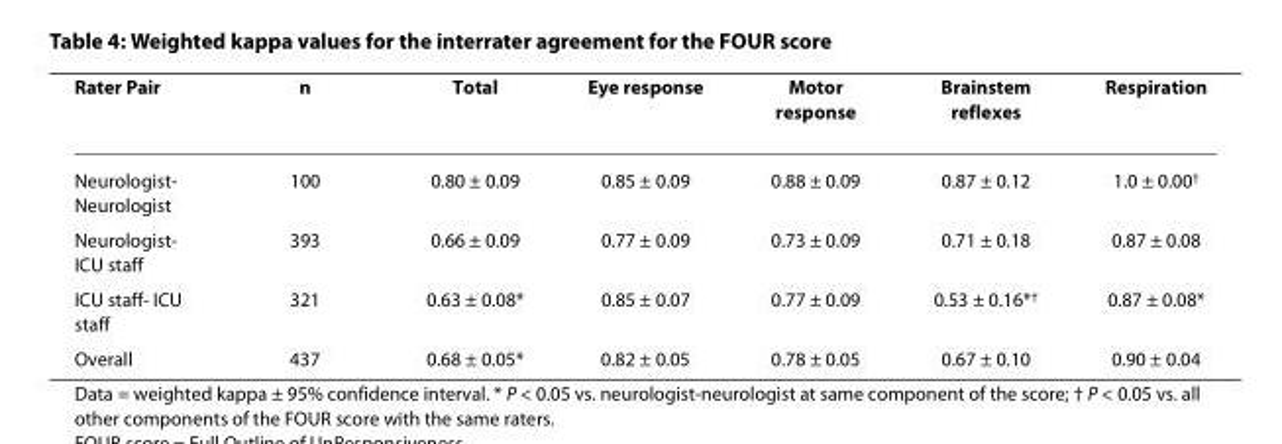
<table><thead><tr><td>Rater Pair</td><td>n</td><td>Total</td><td>Eye response</td><td>Motor response</td><td>Brainstem reflexes</td><td>Respiration</td></tr></thead><tbody><tr><td>Neurologist- Neurologist</td><td>100</td><td>0.80 ± 0.09</td><td>0.85 ± 0.09</td><td>0.88 ± 0.09</td><td>0.87 ± 0.12</td><td>1.0 ± 0.00<sup>†</sup></td></tr><tr><td>Neurologist- ICU staff</td><td>393</td><td>0.66 ± 0.09</td><td>0.77 ± 0.09</td><td>0.73 ± 0.09</td><td>0.71 ± 0.18</td><td>0.87 ± 0.08</td></tr><tr><td>ICU staff- ICU staff</td><td>321</td><td>0.63 ± 0.08*</td><td>0.85 ± 0.07</td><td>0.77 ± 0.09</td><td>0.53 ± 0.16*<sup>†</sup></td><td>0.87 ± 0.08*</td></tr><tr><td>Overall</td><td>437</td><td>0.68 ± 0.05*</td><td>0.82 ± 0.05</td><td>0.78 ± 0.05</td><td>0.67 ± 0.10</td><td>0.90 ± 0.04</td></tr></tbody></table>